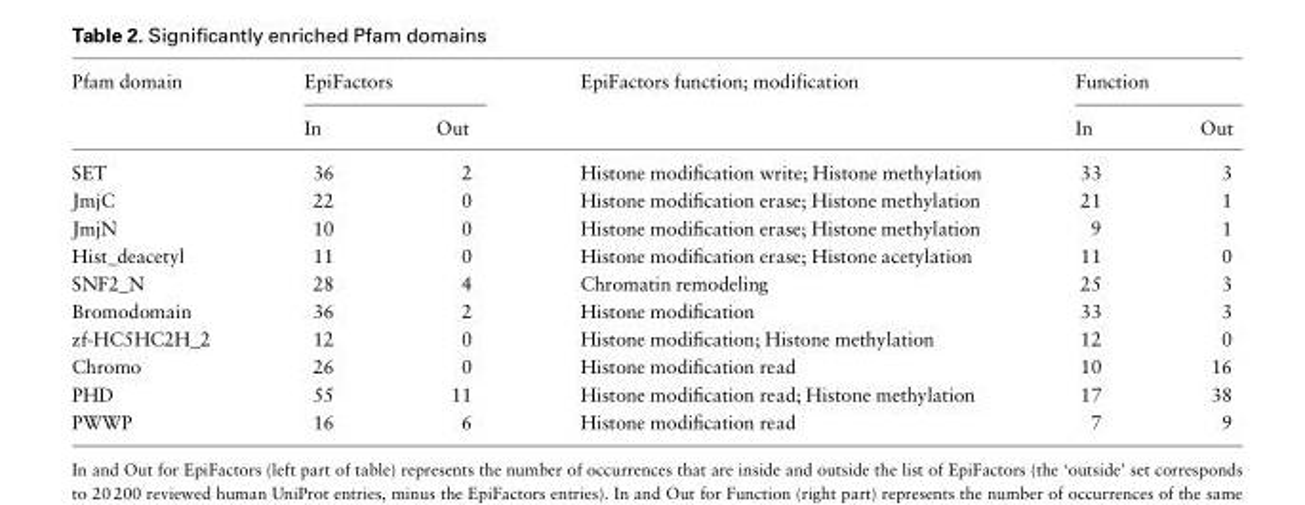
<table><thead><tr><td rowspan="2">Pfam domain</td><td colspan="2">EpiFactors</td><td rowspan="2">EpiFactors function; modification</td><td colspan="2">Function</td></tr><tr><td>In</td><td>Out</td><td>In</td><td>Out</td></tr></thead><tbody><tr><td>SET</td><td>36</td><td>2</td><td>Histone modification write; Histone methylation</td><td>33</td><td>3</td></tr><tr><td>JmjC</td><td>22</td><td>0</td><td>Histone modification erase; Histone methylation</td><td>21</td><td>1</td></tr><tr><td>JmjN</td><td>10</td><td>0</td><td>Histone modification erase; Histone methylation</td><td>9</td><td>1</td></tr><tr><td>Hist_deacetyl</td><td>11</td><td>0</td><td>Histone modification erase; Histone acetylation</td><td>11</td><td>0</td></tr><tr><td>SNF2_N</td><td>28</td><td>4</td><td>Chromatin remodeling</td><td>25</td><td>3</td></tr><tr><td>Bromodomain</td><td>36</td><td>2</td><td>Histone modification</td><td>33</td><td>3</td></tr><tr><td>zf-HC5HC2H_2</td><td>12</td><td>0</td><td>Histone modification; Histone methylation</td><td>12</td><td>0</td></tr><tr><td>Chromo</td><td>26</td><td>0</td><td>Histone modification read</td><td>10</td><td>16</td></tr><tr><td>PHD</td><td>55</td><td>11</td><td>Histone modification read; Histone methylation</td><td>17</td><td>38</td></tr><tr><td>PWWP</td><td>16</td><td>6</td><td>Histone modification read</td><td>7</td><td>9</td></tr></tbody></table>